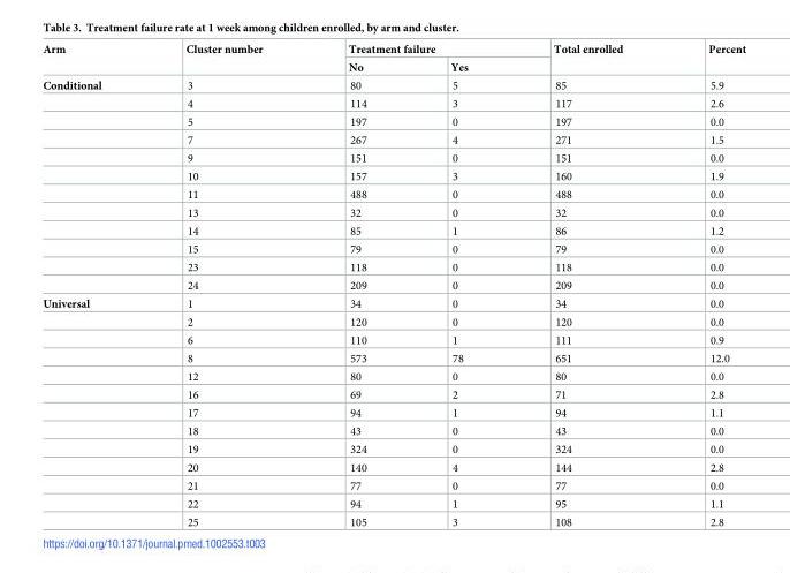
<table><thead><tr><td rowspan="2">Arm</td><td rowspan="2">Cluster number</td><td colspan="2">Treatment failure</td><td rowspan="2">Total enrolled</td><td rowspan="2">Percent</td></tr><tr><td>No</td><td>Yes</td></tr></thead><tbody><tr><td rowspan="12">Conditional</td><td>3</td><td>80</td><td>5</td><td>85</td><td>5.9</td></tr><tr><td>4</td><td>114</td><td>3</td><td>117</td><td>2.6</td></tr><tr><td>5</td><td>197</td><td>0</td><td>197</td><td>0.0</td></tr><tr><td>7</td><td>267</td><td>4</td><td>271</td><td>1.5</td></tr><tr><td>9</td><td>151</td><td>0</td><td>151</td><td>0.0</td></tr><tr><td>10</td><td>157</td><td>3</td><td>160</td><td>1.9</td></tr><tr><td>11</td><td>488</td><td>0</td><td>488</td><td>0.0</td></tr><tr><td>13</td><td>32</td><td>0</td><td>32</td><td>0.0</td></tr><tr><td>14</td><td>85</td><td>1</td><td>86</td><td>1.2</td></tr><tr><td>15</td><td>79</td><td>0</td><td>79</td><td>0.0</td></tr><tr><td>23</td><td>118</td><td>0</td><td>118</td><td>0.0</td></tr><tr><td>24</td><td>209</td><td>0</td><td>209</td><td>0.0</td></tr><tr><td rowspan="13">Universal</td><td>1</td><td>34</td><td>0</td><td>34</td><td>0.0</td></tr><tr><td>2</td><td>120</td><td>0</td><td>120</td><td>0.0</td></tr><tr><td>6</td><td>110</td><td>1</td><td>111</td><td>0.9</td></tr><tr><td>8</td><td>573</td><td>78</td><td>651</td><td>12.0</td></tr><tr><td>12</td><td>80</td><td>0</td><td>80</td><td>0.0</td></tr><tr><td>16</td><td>69</td><td>2</td><td>71</td><td>2.8</td></tr><tr><td>17</td><td>94</td><td>1</td><td>94</td><td>1.1</td></tr><tr><td>18</td><td>43</td><td>0</td><td>43</td><td>0.0</td></tr><tr><td>19</td><td>324</td><td>0</td><td>324</td><td>0.0</td></tr><tr><td>20</td><td>140</td><td>4</td><td>144</td><td>2.8</td></tr><tr><td>21</td><td>77</td><td>0</td><td>77</td><td>0.0</td></tr><tr><td>22</td><td>94</td><td>1</td><td>95</td><td>1.1</td></tr><tr><td>25</td><td>105</td><td>3</td><td>108</td><td>2.8</td></tr></tbody></table>